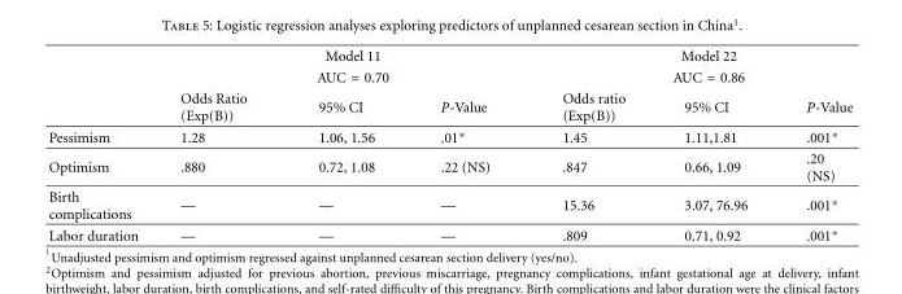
<table><thead><tr><td rowspan="3"></td><td rowspan="2" colspan="3">Model 11 AUC = 0.70</td><td rowspan="2" colspan="3">Model 22 AUC = 0.86</td></tr><tr></tr><tr><td>Odds Ratio (Exp(B))</td><td>95% CI</td><td>P-Value</td><td>Odds ratio (Exp(B))</td><td>95% CI</td><td>P-Value</td></tr></thead><tbody><tr><td>Pessimism</td><td>1.28</td><td>1.06, 1.56</td><td>.01∗</td><td>1.45</td><td>1.11,1.81</td><td>.001∗</td></tr><tr><td>Optimism</td><td>.880</td><td>0.72, 1.08</td><td>.22 (NS)</td><td>.847</td><td>0.66, 1.09</td><td>.20 (NS)</td></tr><tr><td>Birth complications</td><td>—</td><td>—</td><td>—</td><td>15.36</td><td>3.07, 76.96</td><td>.001∗</td></tr><tr><td>Labor duration</td><td>—</td><td>—</td><td>—</td><td>.809</td><td>0.71, 0.92</td><td>.001∗</td></tr></tbody></table>